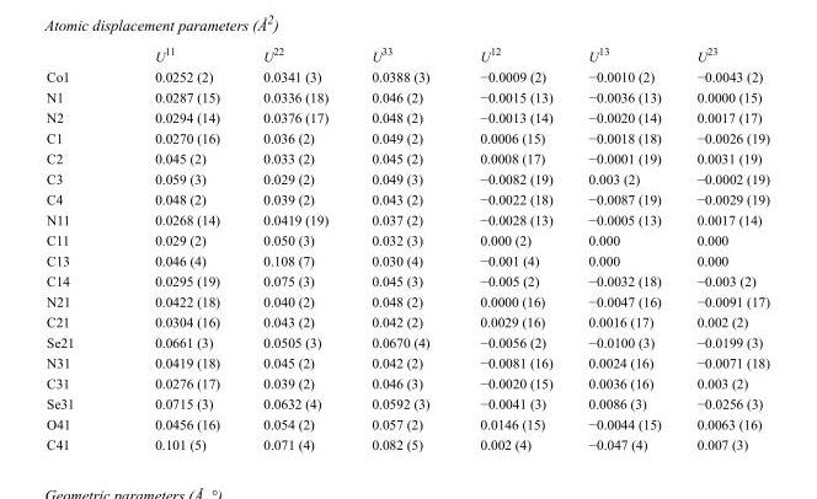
<table><thead><tr><td></td><td>U<sup>11</sup></td><td>U<sup>22</sup></td><td>U<sup>33</sup></td><td>U<sup>12</sup></td><td>U<sup>13</sup></td><td>U<sup>23</sup></td></tr></thead><tbody><tr><td>Co1</td><td>0.0252 (2)</td><td>0.0341 (3)</td><td>0.0388 (3)</td><td>−0.0009 (2)</td><td>−0.0010 (2)</td><td>−0.0043 (2)</td></tr><tr><td>N1</td><td>0.0287 (15)</td><td>0.0336 (18)</td><td>0.046 (2)</td><td>−0.0015 (13)</td><td>−0.0036 (13)</td><td>0.0000 (15)</td></tr><tr><td>N2</td><td>0.0294 (14)</td><td>0.0376 (17)</td><td>0.048 (2)</td><td>−0.0013 (14)</td><td>−0.0020 (14)</td><td>0.0017 (17)</td></tr><tr><td>C1</td><td>0.0270 (16)</td><td>0.036 (2)</td><td>0.049 (2)</td><td>0.0006 (15)</td><td>−0.0018 (18)</td><td>−0.0026 (19)</td></tr><tr><td>C2</td><td>0.045 (2)</td><td>0.033 (2)</td><td>0.045 (2)</td><td>0.0008 (17)</td><td>−0.0001 (19)</td><td>0.0031 (19)</td></tr><tr><td>C3</td><td>0.059 (3)</td><td>0.029 (2)</td><td>0.049 (3)</td><td>−0.0082 (19)</td><td>0.003 (2)</td><td>−0.0002 (19)</td></tr><tr><td>C4</td><td>0.048 (2)</td><td>0.039 (2)</td><td>0.043 (2)</td><td>−0.0022 (18)</td><td>−0.0087 (19)</td><td>−0.0029 (19)</td></tr><tr><td>N11</td><td>0.0268 (14)</td><td>0.0419 (19)</td><td>0.037 (2)</td><td>−0.0028 (13)</td><td>−0.0005 (13)</td><td>0.0017 (14)</td></tr><tr><td>C11</td><td>0.029 (2)</td><td>0.050 (3)</td><td>0.032 (3)</td><td>0.000 (2)</td><td>0.000</td><td>0.000</td></tr><tr><td>C13</td><td>0.046 (4)</td><td>0.108 (7)</td><td>0.030 (4)</td><td>−0.001 (4)</td><td>0.000</td><td>0.000</td></tr><tr><td>C14</td><td>0.0295 (19)</td><td>0.075 (3)</td><td>0.045 (3)</td><td>−0.005 (2)</td><td>−0.0032 (18)</td><td>−0.003 (2)</td></tr><tr><td>N21</td><td>0.0422 (18)</td><td>0.040 (2)</td><td>0.048 (2)</td><td>0.0000 (16)</td><td>−0.0047 (16)</td><td>−0.0091 (17)</td></tr><tr><td>C21</td><td>0.0304 (16)</td><td>0.043 (2)</td><td>0.042 (2)</td><td>0.0029 (16)</td><td>0.0016 (17)</td><td>0.002 (2)</td></tr><tr><td>Se21</td><td>0.0661 (3)</td><td>0.0505 (3)</td><td>0.0670 (4)</td><td>−0.0056 (2)</td><td>−0.0100 (3)</td><td>−0.0199 (3)</td></tr><tr><td>N31</td><td>0.0419 (18)</td><td>0.045 (2)</td><td>0.042 (2)</td><td>−0.0081 (16)</td><td>0.0024 (16)</td><td>−0.0071 (18)</td></tr><tr><td>C31</td><td>0.0276 (17)</td><td>0.039 (2)</td><td>0.046 (3)</td><td>−0.0020 (15)</td><td>0.0036 (16)</td><td>0.003 (2)</td></tr><tr><td>Se31</td><td>0.0715 (3)</td><td>0.0632 (4)</td><td>0.0592 (3)</td><td>−0.0041 (3)</td><td>0.0086 (3)</td><td>−0.0256 (3)</td></tr><tr><td>O41</td><td>0.0456 (16)</td><td>0.054 (2)</td><td>0.057 (2)</td><td>0.0146 (15)</td><td>−0.0044 (15)</td><td>0.0063 (16)</td></tr><tr><td>C41</td><td>0.101 (5)</td><td>0.071 (4)</td><td>0.082 (5)</td><td>0.002 (4)</td><td>−0.047 (4)</td><td>0.007 (3)</td></tr></tbody></table>